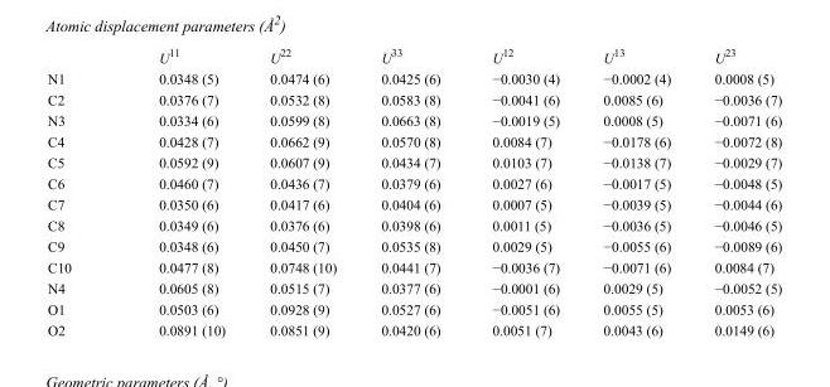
<table><thead><tr><td></td><td>U<sup>11</sup></td><td>U<sup>22</sup></td><td>U<sup>33</sup></td><td>U<sup>12</sup></td><td>U<sup>13</sup></td><td>U<sup>23</sup></td></tr></thead><tbody><tr><td>N1</td><td>0.0348 (5)</td><td>0.0474 (6)</td><td>0.0425 (6)</td><td>−0.0030 (4)</td><td>−0.0002 (4)</td><td>0.0008 (5)</td></tr><tr><td>C2</td><td>0.0376 (7)</td><td>0.0532 (8)</td><td>0.0583 (8)</td><td>−0.0041 (6)</td><td>0.0085 (6)</td><td>−0.0036 (7)</td></tr><tr><td>N3</td><td>0.0334 (6)</td><td>0.0599 (8)</td><td>0.0663 (8)</td><td>−0.0019 (5)</td><td>0.0008 (5)</td><td>−0.0071 (6)</td></tr><tr><td>C4</td><td>0.0428 (7)</td><td>0.0662 (9)</td><td>0.0570 (8)</td><td>0.0084 (7)</td><td>−0.0178 (6)</td><td>−0.0072 (8)</td></tr><tr><td>C5</td><td>0.0592 (9)</td><td>0.0607 (9)</td><td>0.0434 (7)</td><td>0.0103 (7)</td><td>−0.0138 (7)</td><td>−0.0029 (7)</td></tr><tr><td>C6</td><td>0.0460 (7)</td><td>0.0436 (7)</td><td>0.0379 (6)</td><td>0.0027 (6)</td><td>−0.0017 (5)</td><td>−0.0048 (5)</td></tr><tr><td>C7</td><td>0.0350 (6)</td><td>0.0417 (6)</td><td>0.0404 (6)</td><td>0.0007 (5)</td><td>−0.0039 (5)</td><td>−0.0044 (6)</td></tr><tr><td>C8</td><td>0.0349 (6)</td><td>0.0376 (6)</td><td>0.0398 (6)</td><td>0.0011 (5)</td><td>−0.0036 (5)</td><td>−0.0046 (5)</td></tr><tr><td>C9</td><td>0.0348 (6)</td><td>0.0450 (7)</td><td>0.0535 (8)</td><td>0.0029 (5)</td><td>−0.0055 (6)</td><td>−0.0089 (6)</td></tr><tr><td>C10</td><td>0.0477 (8)</td><td>0.0748 (10)</td><td>0.0441 (7)</td><td>−0.0036 (7)</td><td>−0.0071 (6)</td><td>0.0084 (7)</td></tr><tr><td>N4</td><td>0.0605 (8)</td><td>0.0515 (7)</td><td>0.0377 (6)</td><td>−0.0001 (6)</td><td>0.0029 (5)</td><td>−0.0052 (5)</td></tr><tr><td>O1</td><td>0.0503 (6)</td><td>0.0928 (9)</td><td>0.0527 (6)</td><td>−0.0051 (6)</td><td>0.0055 (5)</td><td>0.0053 (6)</td></tr><tr><td>O2</td><td>0.0891 (10)</td><td>0.0851 (9)</td><td>0.0420 (6)</td><td>0.0051 (7)</td><td>0.0043 (6)</td><td>0.0149 (6)</td></tr></tbody></table>